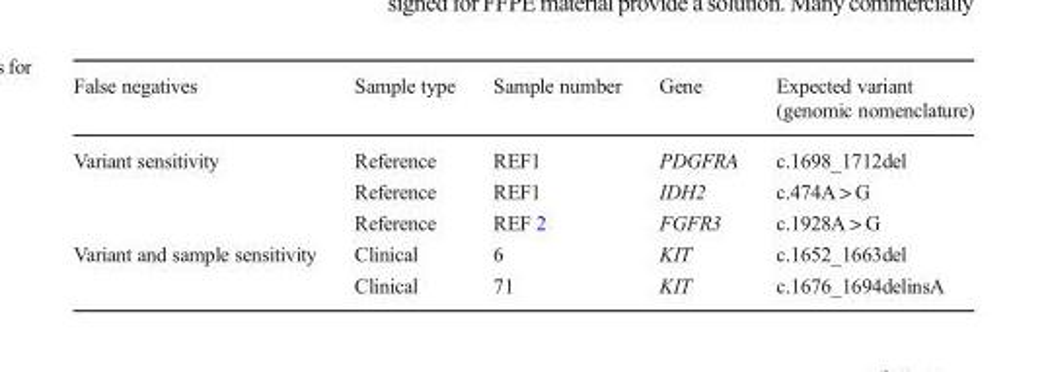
<table><thead><tr><td>False negatives</td><td>Sample type</td><td>Sample number</td><td>Gene</td><td>Expected variant (genomic nomenclature)</td></tr></thead><tbody><tr><td rowspan="3">Variant sensitivity</td><td>Reference</td><td>REF1</td><td>PDGFRA</td><td>c.1698_1712del</td></tr><tr><td>Reference</td><td>REF1</td><td>IDH2</td><td>c.474A &gt; G</td></tr><tr><td>Reference</td><td>REF 2</td><td>FGFR3</td><td>c.1928A &gt; G</td></tr><tr><td rowspan="2">Variant and sample sensitivity</td><td>Clinical</td><td>6</td><td>KIT</td><td>c.1652_1663del</td></tr><tr><td>Clinical</td><td>71</td><td>KIT</td><td>c.1676_1694delinsA</td></tr></tbody></table>